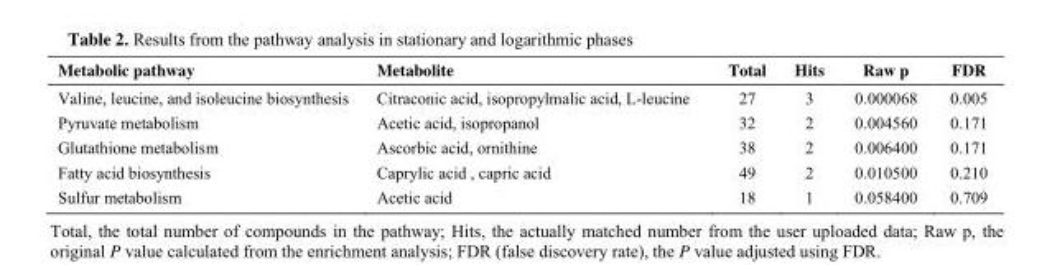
<table><thead><tr><td>Metabolic pathway</td><td>Metabolite</td><td>Total</td><td>Hits</td><td>Raw p</td><td>FDR</td></tr></thead><tbody><tr><td>Valine, leucine, and isoleucine biosynthesis</td><td>Citraconic acid, isopropylmalic acid, L-leucine</td><td>27</td><td>3</td><td>0.000068</td><td>0.005</td></tr><tr><td>Pyruvate metabolism</td><td>Acetic acid, isopropanol</td><td>32</td><td>2</td><td>0.004560</td><td>0.171</td></tr><tr><td>Glutathione metabolism</td><td>Ascorbic acid, ornithine</td><td>38</td><td>2</td><td>0.006400</td><td>0.171</td></tr><tr><td>Fatty acid biosynthesis</td><td>Caprylic acid , capric acid</td><td>49</td><td>2</td><td>0.010500</td><td>0.210</td></tr><tr><td>Sulfur metabolism</td><td>Acetic acid</td><td>18</td><td>1</td><td>0.058400</td><td>0.709</td></tr></tbody></table>